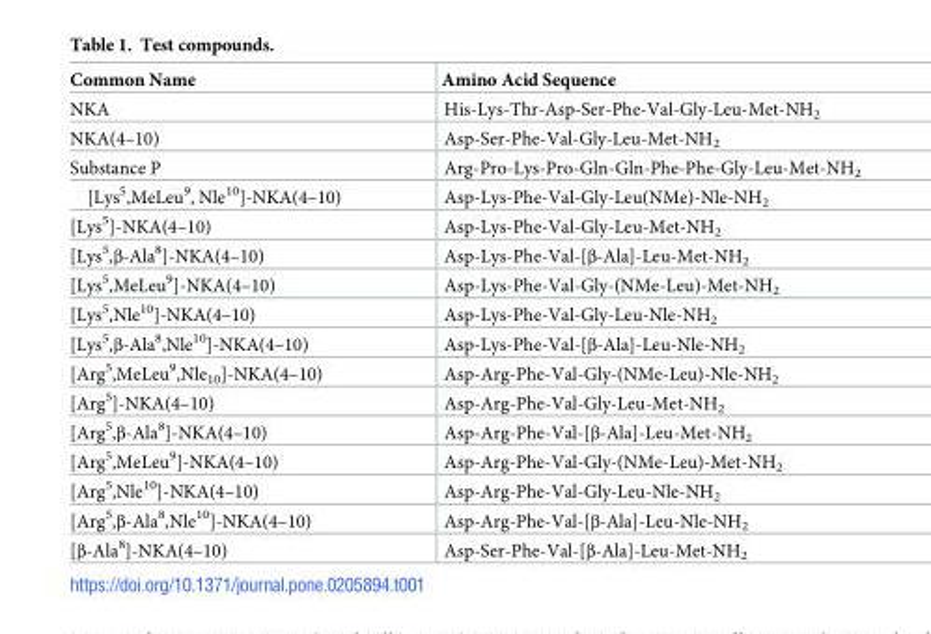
<table><thead><tr><td>Common Name</td><td>Amino Acid Sequence</td></tr></thead><tbody><tr><td>NKA</td><td>His-Lys-Thr-Asp-Ser-Phe-Val-Gly-Leu-Met-NH<sub>2</sub></td></tr><tr><td>NKA(4–10)</td><td>Asp-Ser-Phe-Val-Gly-Leu-Met-NH<sub>2</sub></td></tr><tr><td>Substance P</td><td>Arg-Pro-Lys-Pro-Gln-Gln-Phe-Phe-Gly-Leu-Met-NH<sub>2</sub></td></tr><tr><td>[Lys<sup>5</sup>,MeLeu<sup>9</sup>, Nle<sup>10</sup>]-NKA(4–10)</td><td>Asp-Lys-Phe-Val-Gly-Leu(NMe)-Nle-NH<sub>2</sub></td></tr><tr><td>[Lys<sup>5</sup>]-NKA(4–10)</td><td>Asp-Lys-Phe-Val-Gly-Leu-Met-NH<sub>2</sub></td></tr><tr><td>[Lys<sup>5</sup>,β-Ala<sup>8</sup>]-NKA(4–10)</td><td>Asp-Lys-Phe-Val-[β-Ala]-Leu-Met-NH<sub>2</sub></td></tr><tr><td>[Lys<sup>5</sup>,MeLeu<sup>9</sup>]-NKA(4–10)</td><td>Asp-Lys-Phe-Val-Gly-(NMe-Leu)-Met-NH<sub>2</sub></td></tr><tr><td>[Lys<sup>5</sup>,Nle<sup>10</sup>]-NKA(4–10)</td><td>Asp-Lys-Phe-Val-Gly-Leu-Nle-NH<sub>2</sub></td></tr><tr><td>[Lys<sup>5</sup>,β-Ala<sup>8</sup>,Nle<sup>10</sup>]-NKA(4–10)</td><td>Asp-Lys-Phe-Val-[β-Ala]-Leu-Nle-NH<sub>2</sub></td></tr><tr><td>[Arg<sup>5</sup>,MeLeu<sup>9</sup>,Nle<sub>10</sub>]-NKA(4–10)</td><td>Asp-Arg-Phe-Val-Gly-(NMe-Leu)-Nle-NH<sub>2</sub></td></tr><tr><td>[Arg<sup>5</sup>]-NKA(4–10)</td><td>Asp-Arg-Phe-Val-Gly-Leu-Met-NH<sub>2</sub></td></tr><tr><td>[Arg<sup>5</sup>,β-Ala<sup>8</sup>]-NKA(4–10)</td><td>Asp-Arg-Phe-Val-[β-Ala]-Leu-Met-NH<sub>2</sub></td></tr><tr><td>[Arg<sup>5</sup>,MeLeu<sup>9</sup>]-NKA(4–10)</td><td>Asp-Arg-Phe-Val-Gly-(NMe-Leu)-Met-NH<sub>2</sub></td></tr><tr><td>[Arg<sup>5</sup>,Nle<sup>10</sup>]-NKA(4–10)</td><td>Asp-Arg-Phe-Val-Gly-Leu-Nle-NH<sub>2</sub></td></tr><tr><td>[Arg<sup>5</sup>,β-Ala<sup>8</sup>,Nle<sup>10</sup>]-NKA(4–10)</td><td>Asp-Arg-Phe-Val-[β-Ala]-Leu-Nle-NH<sub>2</sub></td></tr><tr><td>[β-Ala<sup>8</sup>]-NKA(4–10)</td><td>Asp-Ser-Phe-Val-[β-Ala]-Leu-Met-NH<sub>2</sub></td></tr></tbody></table>